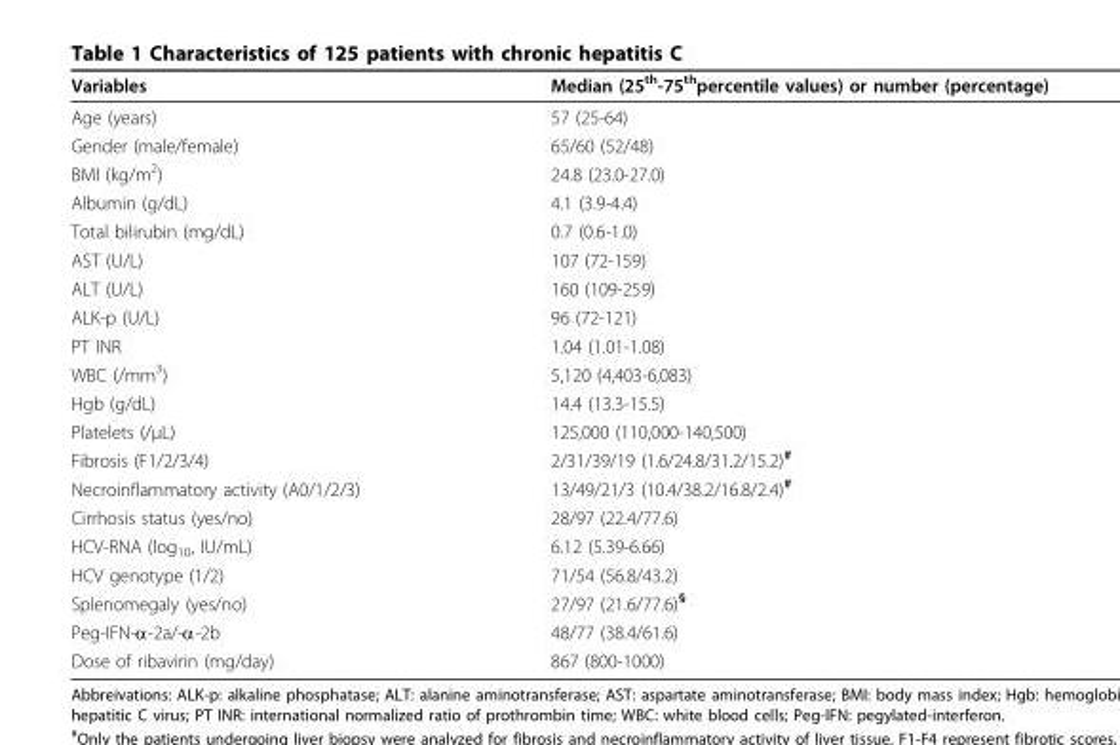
<table><thead><tr><td>Variables</td><td>Median (25<sup>th</sup>-75<sup>th</sup>percentile values) or number (percentage)</td></tr></thead><tbody><tr><td>Age (years)</td><td>57 (25-64)</td></tr><tr><td>Gender (male/female)</td><td>65/60 (52/48)</td></tr><tr><td>BMI (kg/m<sup>2</sup>)</td><td>24.8 (23.0-27.0)</td></tr><tr><td>Albumin (g/dL)</td><td>4.1 (3.9-4.4)</td></tr><tr><td>Total bilirubin (mg/dL)</td><td>0.7 (0.6-1.0)</td></tr><tr><td>AST (U/L)</td><td>107 (72-159)</td></tr><tr><td>ALT (U/L)</td><td>160 (109-259)</td></tr><tr><td>ALK-p (U/L)</td><td>96 (72-121)</td></tr><tr><td>PT INR</td><td>1.04 (1.01-1.08)</td></tr><tr><td>WBC (/mm<sup>3</sup>)</td><td>5,120 (4,403-6,083)</td></tr><tr><td>Hgb (g/dL)</td><td>14.4 (13.3-15.5)</td></tr><tr><td>Platelets (/μL)</td><td>125,000 (110,000-140,500)</td></tr><tr><td>Fibrosis (F1/2/3/4)</td><td>2/31/39/19 (1.6/24.8/31.2/15.2)<sup>#</sup></td></tr><tr><td>Necroinflammatory activity (A0/1/2/3)</td><td>13/49/21/3 (10.4/38.2/16.8/2.4)<sup>#</sup></td></tr><tr><td>Cirrhosis status (yes/no)</td><td>28/97 (22.4/77.6)</td></tr><tr><td>HCV-RNA (log<sub>10</sub>, IU/mL)</td><td>6.12 (5.39-6.66)</td></tr><tr><td>HCV genotype (1/2)</td><td>71/54 (56.8/43.2)</td></tr><tr><td>Splenomegaly (yes/no)</td><td>27/97 (21.6/77.6)<sup>§</sup></td></tr><tr><td>Peg-IFN-α-2a/-α-2b</td><td>48/77 (38.4/61.6)</td></tr><tr><td>Dose of ribavirin (mg/day)</td><td>867 (800-1000)</td></tr></tbody></table>